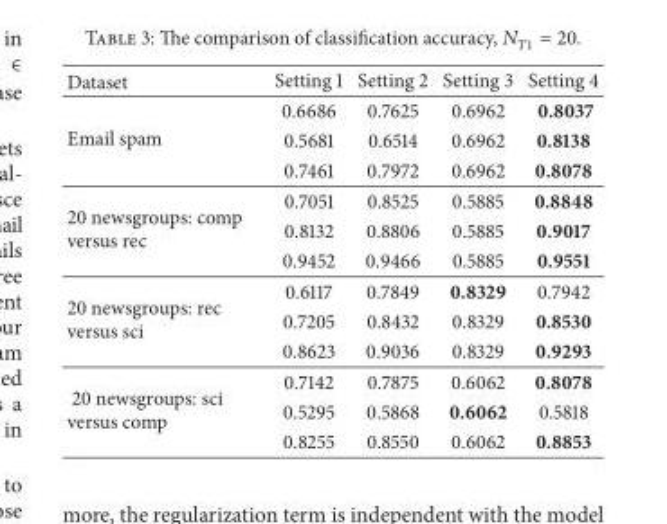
<table><thead><tr><td>Dataset</td><td>Setting 1</td><td>Setting 2</td><td>Setting 3</td><td>Setting 4</td></tr></thead><tbody><tr><td rowspan="3">Email spam</td><td>0.6686</td><td>0.7625</td><td>0.6962</td><td>0.8037</td></tr><tr><td>0.5681</td><td>0.6514</td><td>0.6962</td><td>0.8138</td></tr><tr><td>0.7461</td><td>0.7972</td><td>0.6962</td><td>0.8078</td></tr><tr><td rowspan="3">20 newsgroups: comp versus rec</td><td>0.7051</td><td>0.8525</td><td>0.5885</td><td>0.8848</td></tr><tr><td>0.8132</td><td>0.8806</td><td>0.5885</td><td>0.9017</td></tr><tr><td>0.9452</td><td>0.9466</td><td>0.5885</td><td>0.9551</td></tr><tr><td rowspan="3">20 newsgroups: rec versus sci</td><td>0.6117</td><td>0.7849</td><td>0.8329</td><td>0.7942</td></tr><tr><td>0.7205</td><td>0.8432</td><td>0.8329</td><td>0.8530</td></tr><tr><td>0.8623</td><td>0.9036</td><td>0.8329</td><td>0.9293</td></tr><tr><td rowspan="3">20 newsgroups: sci versus comp</td><td>0.7142</td><td>0.7875</td><td>0.6062</td><td>0.8078</td></tr><tr><td>0.5295</td><td>0.5868</td><td>0.6062</td><td>0.5818</td></tr><tr><td>0.8255</td><td>0.8550</td><td>0.6062</td><td>0.8853</td></tr></tbody></table>